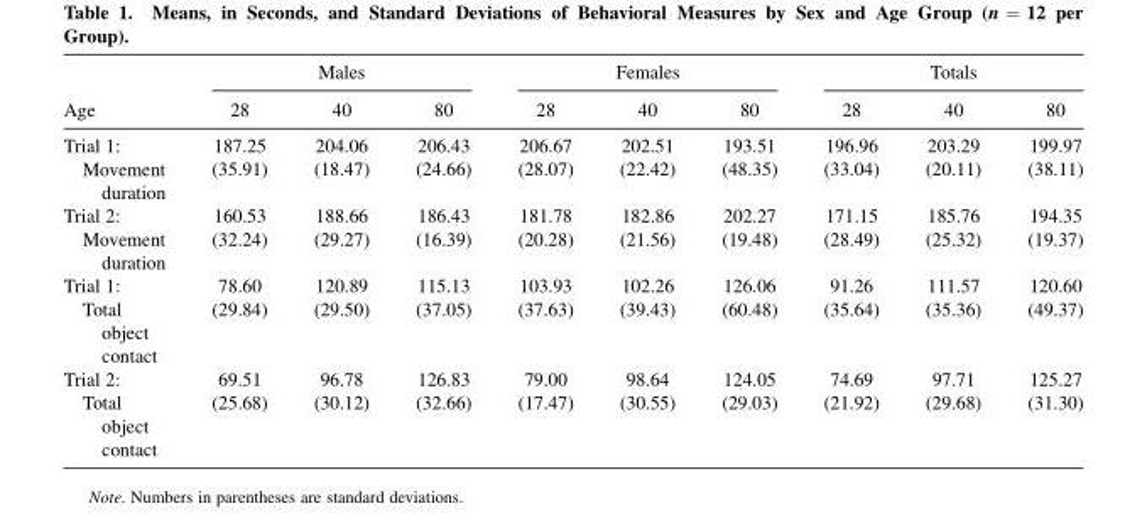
<table><thead><tr><td rowspan="2">Age</td><td colspan="3">Males</td><td colspan="3">Females</td><td colspan="3">Totals</td></tr><tr><td>28</td><td>40</td><td>80</td><td>28</td><td>40</td><td>80</td><td>28</td><td>40</td><td>80</td></tr></thead><tbody><tr><td>Trial 1: Movement duration</td><td>187.25 (35.91)</td><td>204.06 (18.47)</td><td>206.43 (24.66)</td><td>206.67 (28.07)</td><td>202.51 (22.42)</td><td>193.51 (48.35)</td><td>196.96 (33.04)</td><td>203.29 (20.11)</td><td>199.97 (38.11)</td></tr><tr><td>Trial 2: Movement duration</td><td>160.53 (32.24)</td><td>188.66 (29.27)</td><td>186.43 (16.39)</td><td>181.78 (20.28)</td><td>182.86 (21.56)</td><td>202.27 (19.48)</td><td>171.15 (28.49)</td><td>185.76 (25.32)</td><td>194.35 (19.37)</td></tr><tr><td>Trial 1: Total object contact</td><td>78.60 (29.84)</td><td>120.89 (29.50)</td><td>115.13 (37.05)</td><td>103.93 (37.63)</td><td>102.26 (39.43)</td><td>126.06 (60.48)</td><td>91.26 (35.64)</td><td>111.57 (35.36)</td><td>120.60 (49.37)</td></tr><tr><td>Trial 2: Total object contact</td><td>69.51 (25.68)</td><td>96.78 (30.12)</td><td>126.83 (32.66)</td><td>79.00 (17.47)</td><td>98.64 (30.55)</td><td>124.05 (29.03)</td><td>74.69 (21.92)</td><td>97.71 (29.68)</td><td>125.27 (31.30)</td></tr></tbody></table>